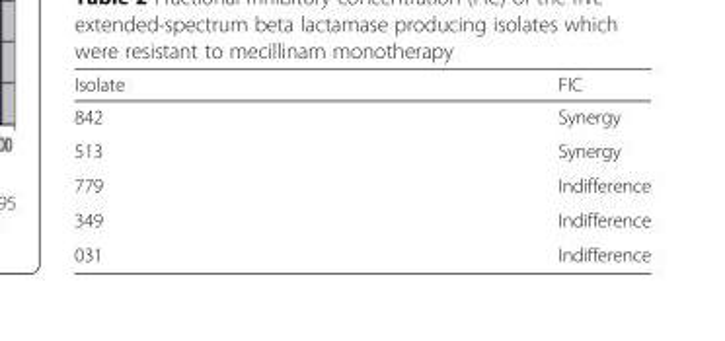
<table><thead><tr><td>Isolate</td><td>FIC</td></tr></thead><tbody><tr><td>842</td><td>Synergy</td></tr><tr><td>513</td><td>Synergy</td></tr><tr><td>779</td><td>Indifference</td></tr><tr><td>349</td><td>Indifference</td></tr><tr><td>031</td><td>Indifference</td></tr></tbody></table>